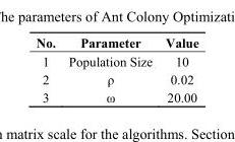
<table><thead><tr><td>No.</td><td>Parameter</td><td>Value</td></tr></thead><tbody><tr><td>1</td><td>Population Size</td><td>10</td></tr><tr><td>2</td><td>ρ</td><td>0.02</td></tr><tr><td>3</td><td>ω</td><td>20.00</td></tr></tbody></table>